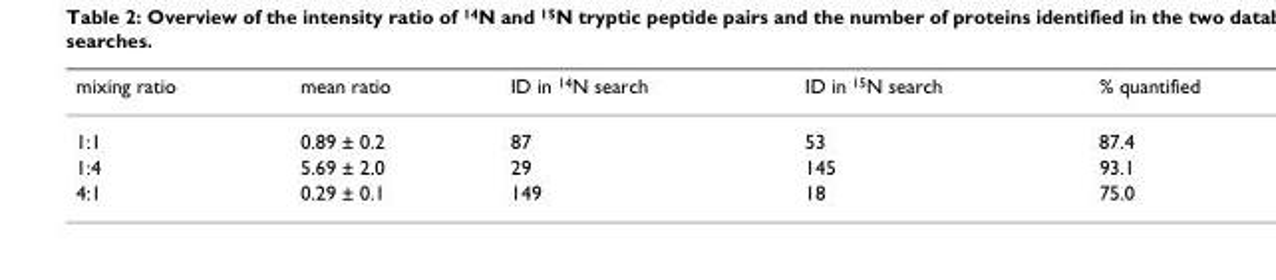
<table><thead><tr><td>mixing ratio</td><td>mean ratio</td><td>ID in <sup>14</sup>N search</td><td>ID in <sup>15</sup>N search</td><td>% quantified</td></tr></thead><tbody><tr><td>1:1</td><td>0.89 ± 0.2</td><td>87</td><td>53</td><td>87.4</td></tr><tr><td>1:4</td><td>5.69 ± 2.0</td><td>29</td><td>145</td><td>93.1</td></tr><tr><td>4:1</td><td>0.29 ± 0.1</td><td>149</td><td>18</td><td>75.0</td></tr></tbody></table>